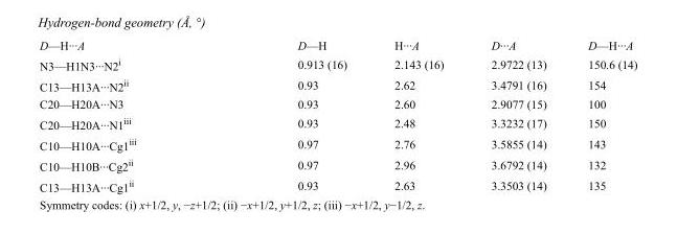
<table><tbody><tr><td>D—H···A</td><td>D—H</td><td>H···A</td><td>D···A</td><td>D—H···A</td></tr><tr><td>N3—H1N3···N2<sup>i</sup></td><td>0.913 (16)</td><td>2.143 (16)</td><td>2.9722 (13)</td><td>150.6 (14)</td></tr><tr><td>C13—H13A···N2<sup>ii</sup></td><td>0.93</td><td>2.62</td><td>3.4791 (16)</td><td>154</td></tr><tr><td>C20—H20A···N3</td><td>0.93</td><td>2.60</td><td>2.9077 (15)</td><td>100</td></tr><tr><td>C20—H20A···N1<sup>iii</sup></td><td>0.93</td><td>2.48</td><td>3.3232 (17)</td><td>150</td></tr><tr><td>C10—H10A···Cg1<sup>iii</sup></td><td>0.97</td><td>2.76</td><td>3.5855 (14)</td><td>143</td></tr><tr><td>C10—H10B···Cg2<sup>ii</sup></td><td>0.97</td><td>2.96</td><td>3.6792 (14)</td><td>132</td></tr><tr><td>C13—H13A···Cg1<sup>ii</sup></td><td>0.93</td><td>2.63</td><td>3.3503 (14)</td><td>135</td></tr></tbody></table>